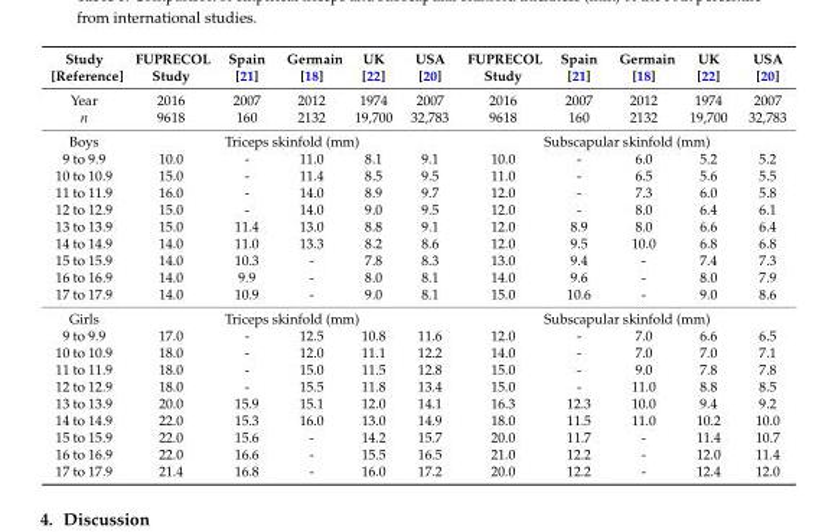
<table><thead><tr><td>Study [Reference]</td><td>FUPRECOL Study</td><td>Spain [21]</td><td>Germain [18]</td><td>UK [22]</td><td>USA [20]</td><td>FUPRECOL Study</td><td>Spain [21]</td><td>Germain [18]</td><td>UK [22]</td><td>USA [20]</td></tr></thead><tbody><tr><td>Year</td><td>2016</td><td>2007</td><td>2012</td><td>1974</td><td>2007</td><td>2016</td><td>2007</td><td>2012</td><td>1974</td><td>2007</td></tr><tr><td>n</td><td>9618</td><td>160</td><td>2132</td><td>19,700</td><td>32,783</td><td>9618</td><td>160</td><td>2132</td><td>19,700</td><td>32,783</td></tr><tr><td>Boys</td><td colspan="5">Triceps skinfold (mm)</td><td colspan="5">Subscapular skinfold (mm)</td></tr><tr><td>9 to 9.9</td><td>10.0</td><td>-</td><td>11.0</td><td>8.1</td><td>9.1</td><td>10.0</td><td>-</td><td>6.0</td><td>5.2</td><td>5.2</td></tr><tr><td>10 to 10.9</td><td>15.0</td><td>-</td><td>11.4</td><td>8.5</td><td>9.5</td><td>11.0</td><td>-</td><td>6.5</td><td>5.6</td><td>5.5</td></tr><tr><td>11 to 11.9</td><td>16.0</td><td>-</td><td>14.0</td><td>8.9</td><td>9.7</td><td>12.0</td><td>-</td><td>7.3</td><td>6.0</td><td>5.8</td></tr><tr><td>12 to 12.9</td><td>15.0</td><td>-</td><td>14.0</td><td>9.0</td><td>9.5</td><td>12.0</td><td>-</td><td>8.0</td><td>6.4</td><td>6.1</td></tr><tr><td>13 to 13.9</td><td>15.0</td><td>11.4</td><td>13.0</td><td>8.8</td><td>9.1</td><td>12.0</td><td>8.9</td><td>8.0</td><td>6.6</td><td>6.4</td></tr><tr><td>14 to 14.9</td><td>14.0</td><td>11.0</td><td>13.3</td><td>8.2</td><td>8.6</td><td>12.0</td><td>9.5</td><td>10.0</td><td>6.8</td><td>6.8</td></tr><tr><td>15 to 15.9</td><td>14.0</td><td>10.3</td><td>-</td><td>7.8</td><td>8.3</td><td>13.0</td><td>9.4</td><td>-</td><td>7.4</td><td>7.3</td></tr><tr><td>16 to 16.9</td><td>14.0</td><td>9.9</td><td>-</td><td>8.0</td><td>8.1</td><td>14.0</td><td>9.6</td><td>-</td><td>8.0</td><td>7.9</td></tr><tr><td>17 to 17.9</td><td>14.0</td><td>10.9</td><td>-</td><td>9.0</td><td>8.1</td><td>15.0</td><td>10.6</td><td>-</td><td>9.0</td><td>8.6</td></tr><tr><td>Girls</td><td colspan="5">Triceps skinfold (mm)</td><td colspan="5">Subscapular skinfold (mm)</td></tr><tr><td>9 to 9.9</td><td>17.0</td><td>-</td><td>12.5</td><td>10.8</td><td>11.6</td><td>12.0</td><td>-</td><td>7.0</td><td>6.6</td><td>6.5</td></tr><tr><td>10 to 10.9</td><td>18.0</td><td>-</td><td>12.0</td><td>11.1</td><td>12.2</td><td>14.0</td><td>-</td><td>7.0</td><td>7.0</td><td>7.1</td></tr><tr><td>11 to 11.9</td><td>18.0</td><td>-</td><td>15.0</td><td>11.5</td><td>12.8</td><td>15.0</td><td>-</td><td>9.0</td><td>7.8</td><td>7.8</td></tr><tr><td>12 to 12.9</td><td>18.0</td><td>-</td><td>15.5</td><td>11.8</td><td>13.4</td><td>15.0</td><td>-</td><td>11.0</td><td>8.8</td><td>8.5</td></tr><tr><td>13 to 13.9</td><td>20.0</td><td>15.9</td><td>15.1</td><td>12.0</td><td>14.1</td><td>16.3</td><td>12.3</td><td>10.0</td><td>9.4</td><td>9.2</td></tr><tr><td>14 to 14.9</td><td>22.0</td><td>15.3</td><td>16.0</td><td>13.0</td><td>14.9</td><td>18.0</td><td>11.5</td><td>11.0</td><td>10.2</td><td>10.0</td></tr><tr><td>15 to 15.9</td><td>22.0</td><td>15.6</td><td>-</td><td>14.2</td><td>15.7</td><td>20.0</td><td>11.7</td><td>-</td><td>11.4</td><td>10.7</td></tr><tr><td>16 to 16.9</td><td>22.0</td><td>16.6</td><td>-</td><td>15.5</td><td>16.5</td><td>21.0</td><td>12.2</td><td>-</td><td>12.0</td><td>11.4</td></tr><tr><td>17 to 17.9</td><td>21.4</td><td>16.8</td><td>-</td><td>16.0</td><td>17.2</td><td>20.0</td><td>12.2</td><td>-</td><td>12.4</td><td>12.0</td></tr></tbody></table>